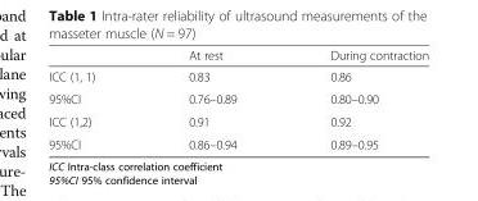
<table><thead><tr><td></td><td>At rest</td><td>During contraction</td></tr></thead><tbody><tr><td>ICC (1, 1)</td><td>0.83</td><td>0.86</td></tr><tr><td>95%CI</td><td>0.76–0.89</td><td>0.80–0.90</td></tr><tr><td>ICC (1,2)</td><td>0.91</td><td>0.92</td></tr><tr><td>95%CI</td><td>0.86–0.94</td><td>0.89–0.95</td></tr></tbody></table>